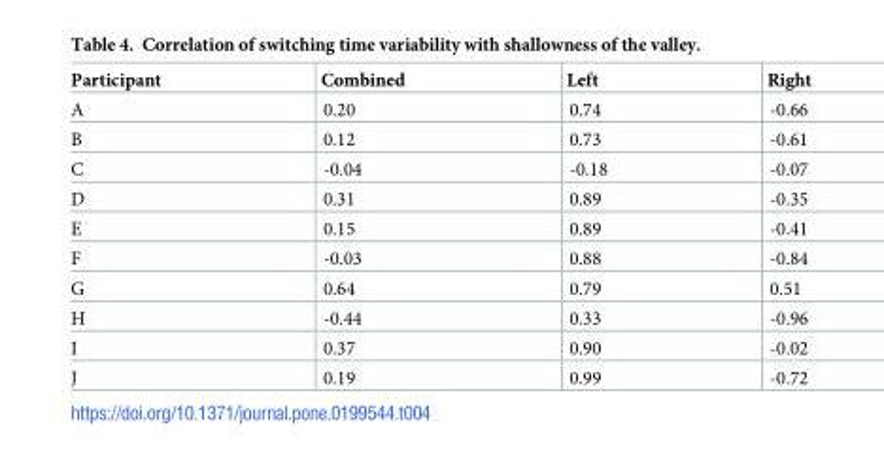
<table><thead><tr><td>Participant</td><td>Combined</td><td>Left</td><td>Right</td></tr></thead><tbody><tr><td>A</td><td>0.20</td><td>0.74</td><td>-0.66</td></tr><tr><td>B</td><td>0.12</td><td>0.73</td><td>-0.61</td></tr><tr><td>C</td><td>-0.04</td><td>-0.18</td><td>-0.07</td></tr><tr><td>D</td><td>0.31</td><td>0.89</td><td>-0.35</td></tr><tr><td>E</td><td>0.15</td><td>0.89</td><td>-0.41</td></tr><tr><td>F</td><td>-0.03</td><td>0.88</td><td>-0.84</td></tr><tr><td>G</td><td>0.64</td><td>0.79</td><td>0.51</td></tr><tr><td>H</td><td>-0.44</td><td>0.33</td><td>-0.96</td></tr><tr><td>I</td><td>0.37</td><td>0.90</td><td>-0.02</td></tr><tr><td>J</td><td>0.19</td><td>0.99</td><td>-0.72</td></tr></tbody></table>